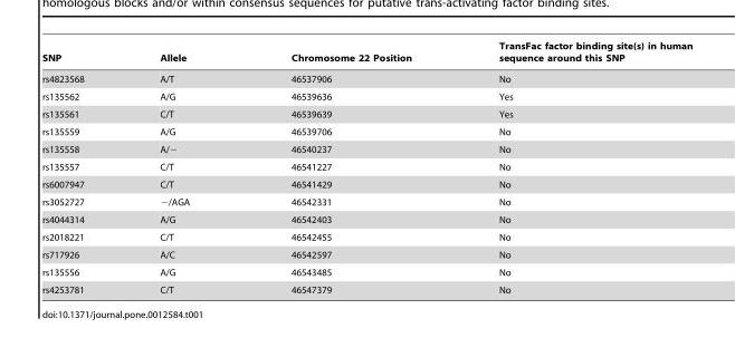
<table><thead><tr><td>SNP</td><td>Allele</td><td>Chromosome 22 Position</td><td>TransFac factor binding site(s) in human sequence around this SNP</td></tr></thead><tbody><tr><td>rs4823568</td><td>A/T</td><td>46537906</td><td>No</td></tr><tr><td>rs135562</td><td>A/G</td><td>46539636</td><td>Yes</td></tr><tr><td>rs135561</td><td>C/T</td><td>46539639</td><td>Yes</td></tr><tr><td>rs135559</td><td>A/G</td><td>46539706</td><td>No</td></tr><tr><td>rs135558</td><td>A/−</td><td>46540237</td><td>No</td></tr><tr><td>rs135557</td><td>C/T</td><td>46541227</td><td>No</td></tr><tr><td>rs6007947</td><td>C/T</td><td>46541429</td><td>No</td></tr><tr><td>rs3052727</td><td>−/AGA</td><td>46542331</td><td>No</td></tr><tr><td>rs4044314</td><td>A/G</td><td>46542403</td><td>No</td></tr><tr><td>rs2018221</td><td>C/T</td><td>46542455</td><td>No</td></tr><tr><td>rs717926</td><td>A/C</td><td>46542597</td><td>No</td></tr><tr><td>rs135556</td><td>A/G</td><td>46543485</td><td>No</td></tr><tr><td>rs4253781</td><td>C/T</td><td>46547379</td><td>No</td></tr></tbody></table>